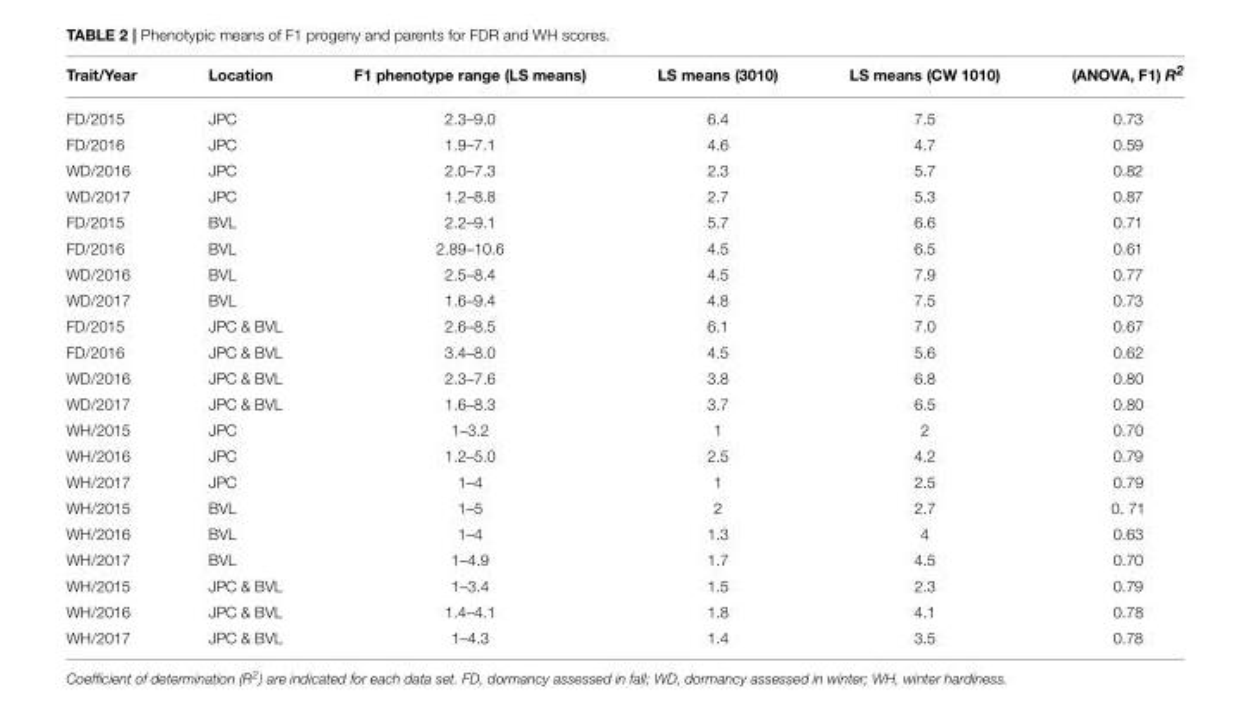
<table><thead><tr><td>Trait/Year</td><td>Location</td><td>F1 phenotype range (LS means)</td><td>LS means (3010)</td><td>LS means (CW 1010)</td><td>(ANOVA, F1) R<sup>2</sup></td></tr></thead><tbody><tr><td>FD/2015</td><td>JPC</td><td>2.3–9.0</td><td>6.4</td><td>7.5</td><td>0.73</td></tr><tr><td>FD/2016</td><td>JPC</td><td>1.9–7.1</td><td>4.6</td><td>4.7</td><td>0.59</td></tr><tr><td>WD/2016</td><td>JPC</td><td>2.0–7.3</td><td>2.3</td><td>5.7</td><td>0.82</td></tr><tr><td>WD/2017</td><td>JPC</td><td>1.2–8.8</td><td>2.7</td><td>5.3</td><td>0.87</td></tr><tr><td>FD/2015</td><td>BVL</td><td>2.2–9.1</td><td>5.7</td><td>6.6</td><td>0.71</td></tr><tr><td>FD/2016</td><td>BVL</td><td>2.89–10.6</td><td>4.5</td><td>6.5</td><td>0.61</td></tr><tr><td>WD/2016</td><td>BVL</td><td>2.5–8.4</td><td>4.5</td><td>7.9</td><td>0.77</td></tr><tr><td>WD/2017</td><td>BVL</td><td>1.6–9.4</td><td>4.8</td><td>7.5</td><td>0.73</td></tr><tr><td>FD/2015</td><td>JPC &amp; BVL</td><td>2.6–8.5</td><td>6.1</td><td>7.0</td><td>0.67</td></tr><tr><td>FD/2016</td><td>JPC &amp; BVL</td><td>3.4–8.0</td><td>4.5</td><td>5.6</td><td>0.62</td></tr><tr><td>WD/2016</td><td>JPC &amp; BVL</td><td>2.3–7.6</td><td>3.8</td><td>6.8</td><td>0.80</td></tr><tr><td>WD/2017</td><td>JPC &amp; BVL</td><td>1.6–8.3</td><td>3.7</td><td>6.5</td><td>0.80</td></tr><tr><td>WH/2015</td><td>JPC</td><td>1–3.2</td><td>1</td><td>2</td><td>0.70</td></tr><tr><td>WH/2016</td><td>JPC</td><td>1.2–5.0</td><td>2.5</td><td>4.2</td><td>0.79</td></tr><tr><td>WH/2017</td><td>JPC</td><td>1–4</td><td>1</td><td>2.5</td><td>0.79</td></tr><tr><td>WH/2015</td><td>BVL</td><td>1–5</td><td>2</td><td>2.7</td><td>0. 71</td></tr><tr><td>WH/2016</td><td>BVL</td><td>1–4</td><td>1.3</td><td>4</td><td>0.63</td></tr><tr><td>WH/2017</td><td>BVL</td><td>1–4.9</td><td>1.7</td><td>4.5</td><td>0.70</td></tr><tr><td>WH/2015</td><td>JPC &amp; BVL</td><td>1–3.4</td><td>1.5</td><td>2.3</td><td>0.79</td></tr><tr><td>WH/2016</td><td>JPC &amp; BVL</td><td>1.4–4.1</td><td>1.8</td><td>4.1</td><td>0.78</td></tr><tr><td>WH/2017</td><td>JPC &amp; BVL</td><td>1–4.3</td><td>1.4</td><td>3.5</td><td>0.78</td></tr></tbody></table>